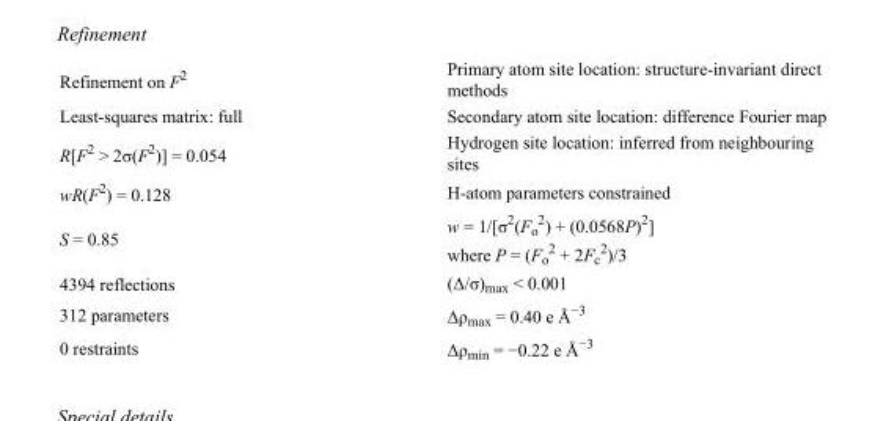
<table><tbody><tr><td>Refinement on F<sup>2</sup></td><td>Primary atom site location: structure-invariant direct methods</td></tr><tr><td>Least-squares matrix: full</td><td>Secondary atom site location: difference Fourier map</td></tr><tr><td>R[F<sup>2</sup> &gt; 2σ(F<sup>2</sup>)] = 0.054</td><td>Hydrogen site location: inferred from neighbouring sites</td></tr><tr><td>wR(F<sup>2</sup>) = 0.128</td><td>H-atom parameters constrained</td></tr><tr><td>S = 0.85</td><td>w = 1/[σ<sup>2</sup>(F<sub>o</sub> <sup>2</sup>) + (0.0568P)<sup>2</sup>] where P = (F<sub>o</sub> <sup>2</sup> + 2F<sub>c</sub> <sup>2</sup>)/3</td></tr><tr><td>4394 reflections</td><td>(Δ/σ)<sub>max</sub> &lt; 0.001</td></tr><tr><td>312 parameters</td><td>Δρ<sub>max</sub> = 0.40 e Å<sup>−3</sup></td></tr><tr><td>0 restraints</td><td>Δρ<sub>min</sub> = −0.22 e Å<sup>−3</sup></td></tr></tbody></table>